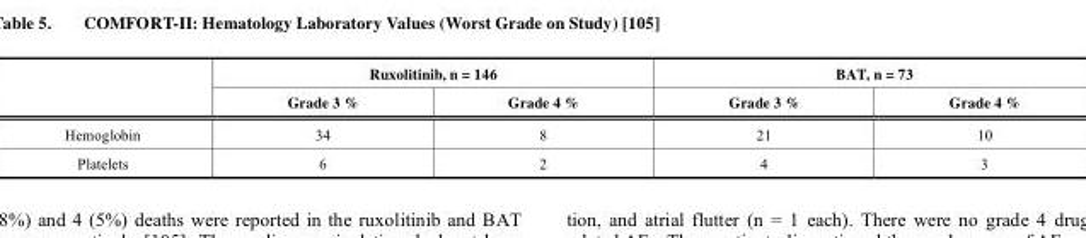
<table><thead><tr><td rowspan="2"></td><td colspan="2">Ruxolitinib, n = 146</td><td colspan="2">BAT, n = 73</td></tr><tr><td>Grade 3 %</td><td>Grade 4 %</td><td>Grade 3 %</td><td>Grade 4 %</td></tr></thead><tbody><tr><td>Hemoglobin</td><td>34</td><td>8</td><td>21</td><td>10</td></tr><tr><td>Platelets</td><td>6</td><td>2</td><td>4</td><td>3</td></tr></tbody></table>